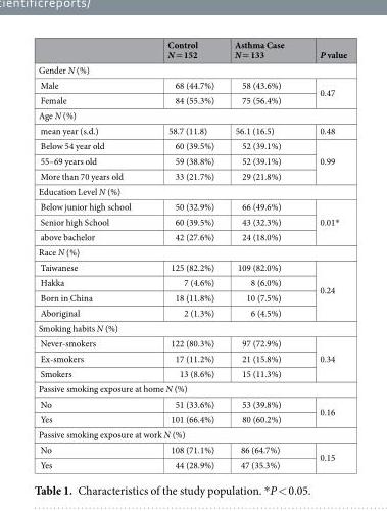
<table><thead><tr><td></td><td>Control N = 152</td><td>Asthma Case N = 133</td><td>P value</td></tr></thead><tbody><tr><td colspan="4">Gender N (%)</td></tr><tr><td>Male</td><td>68 (44.7%)</td><td>58 (43.6%)</td><td rowspan="2">0.47</td></tr><tr><td>Female</td><td>84 (55.3%)</td><td>75 (56.4%)</td></tr><tr><td colspan="4">Age N (%)</td></tr><tr><td>mean year (s.d.)</td><td>58.7 (11.8)</td><td>56.1 (16.5)</td><td>0.48</td></tr><tr><td>Below 54 year old</td><td>60 (39.5%)</td><td>52 (39.1%)</td><td rowspan="3">0.99</td></tr><tr><td>55–69 years old</td><td>59 (38.8%)</td><td>52 (39.1%)</td></tr><tr><td>More than 70 years old</td><td>33 (21.7%)</td><td>29 (21.8%)</td></tr><tr><td colspan="4">Education Level N (%)</td></tr><tr><td>Below junior high school</td><td>50 (32.9%)</td><td>66 (49.6%)</td><td rowspan="3">0.01*</td></tr><tr><td>Senior high School</td><td>60 (39.5%)</td><td>43 (32.3%)</td></tr><tr><td>above bachelor</td><td>42 (27.6%)</td><td>24 (18.0%)</td></tr><tr><td colspan="4">Race N (%)</td></tr><tr><td>Taiwanese</td><td>125 (82.2%)</td><td>109 (82.0%)</td><td rowspan="4">0.24</td></tr><tr><td>Hakka</td><td>7 (4.6%)</td><td>8 (6.0%)</td></tr><tr><td>Born in China</td><td>18 (11.8%)</td><td>10 (7.5%)</td></tr><tr><td>Aboriginal</td><td>2 (1.3%)</td><td>6 (4.5%)</td></tr><tr><td colspan="4">Smoking habits N (%)</td></tr><tr><td>Never-smokers</td><td>122 (80.3%)</td><td>97 (72.9%)</td><td rowspan="3">0.34</td></tr><tr><td>Ex-smokers</td><td>17 (11.2%)</td><td>21 (15.8%)</td></tr><tr><td>Smokers</td><td>13 (8.6%)</td><td>15 (11.3%)</td></tr><tr><td colspan="4">Passive smoking exposure at home N (%)</td></tr><tr><td>No</td><td>51 (33.6%)</td><td>53 (39.8%)</td><td rowspan="2">0.16</td></tr><tr><td>Yes</td><td>101 (66.4%)</td><td>80 (60.2%)</td></tr><tr><td colspan="4">Passive smoking exposure at work N (%)</td></tr><tr><td>No</td><td>108 (71.1%)</td><td>86 (64.7%)</td><td rowspan="2">0.15</td></tr><tr><td>Yes</td><td>44 (28.9%)</td><td>47 (35.3%)</td></tr></tbody></table>